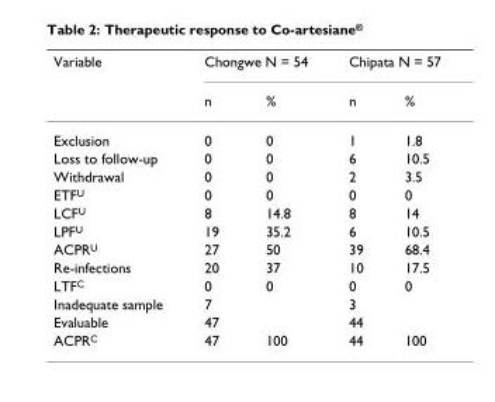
<table><thead><tr><td rowspan="2">Variable</td><td colspan="2">Chongwe N = 54</td><td colspan="2">Chipata N = 57</td></tr><tr><td>n</td><td>%</td><td>n</td><td>%</td></tr></thead><tbody><tr><td>Exclusion</td><td>0</td><td>0</td><td>1</td><td>1.8</td></tr><tr><td>Loss to follow-up</td><td>0</td><td>0</td><td>6</td><td>10.5</td></tr><tr><td>Withdrawal</td><td>0</td><td>0</td><td>2</td><td>3.5</td></tr><tr><td>ETF<sup>U</sup></td><td>0</td><td>0</td><td>0</td><td>0</td></tr><tr><td>LCF<sup>U</sup></td><td>8</td><td>14.8</td><td>8</td><td>14</td></tr><tr><td>LPF<sup>U</sup></td><td>19</td><td>35.2</td><td>6</td><td>10.5</td></tr><tr><td>ACPR<sup>U</sup></td><td>27</td><td>50</td><td>39</td><td>68.4</td></tr><tr><td>Re-infections</td><td>20</td><td>37</td><td>10</td><td>17.5</td></tr><tr><td>LTF<sup>C</sup></td><td>0</td><td>0</td><td>0</td><td>0</td></tr><tr><td>Inadequate sample</td><td>7</td><td></td><td>3</td><td></td></tr><tr><td>Evaluable</td><td>47</td><td></td><td>44</td><td></td></tr><tr><td>ACPR<sup>C</sup></td><td>47</td><td>100</td><td>44</td><td>100</td></tr></tbody></table>